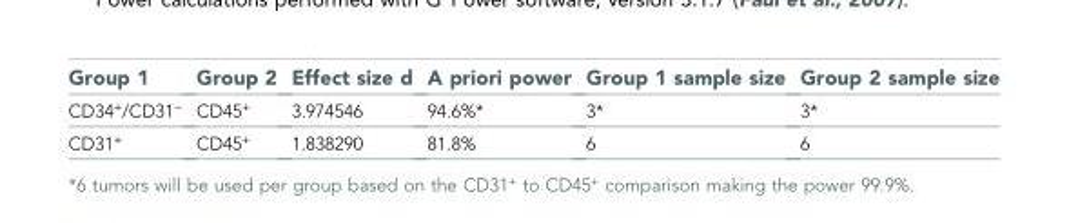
<table><thead><tr><td>Group 1</td><td>Group 2</td><td>Effect size d</td><td>A priori power</td><td>Group 1 sample size</td><td>Group 2 sample size</td></tr></thead><tbody><tr><td>CD34<sup>+</sup>/CD31<sup>−</sup></td><td>CD45<sup>+</sup></td><td>3.974546</td><td>94.6%*</td><td>3*</td><td>3*</td></tr><tr><td>CD31<sup>+</sup></td><td>CD45<sup>+</sup></td><td>1.838290</td><td>81.8%</td><td>6</td><td>6</td></tr></tbody></table>